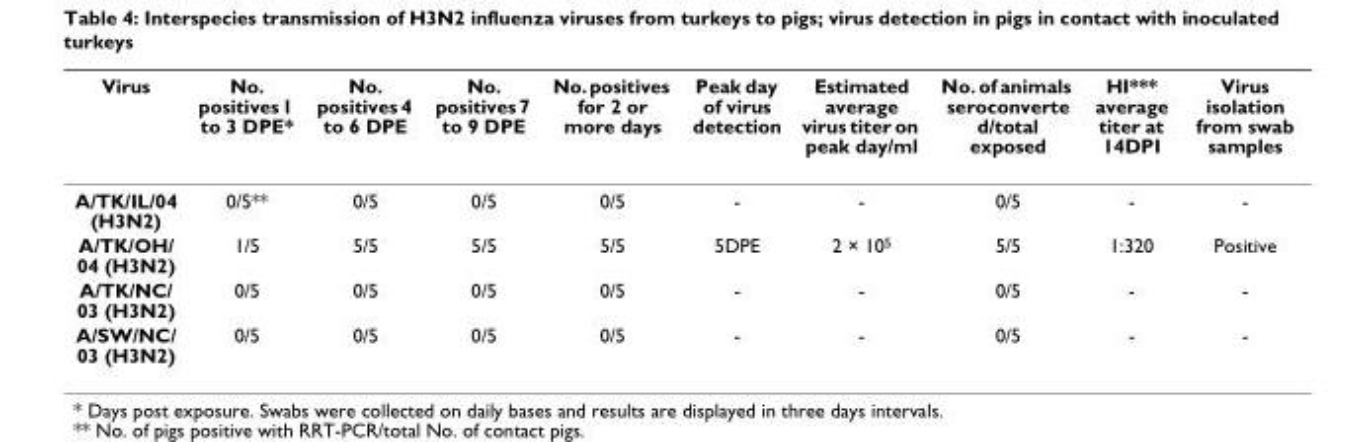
<table><thead><tr><td>Virus</td><td>No. positives 1 to 3 DPE*</td><td>No. positives 4 to 6 DPE</td><td>No. positives 7 to 9 DPE</td><td>No. positives for 2 or more days</td><td>Peak day of virus detection</td><td>Estimated average virus titer on peak day/ml</td><td>No. of animals seroconverte d/total exposed</td><td>HI*** average titer at 14DPI</td><td>Virus isolation from swab samples</td></tr></thead><tbody><tr><td>A/TK/IL/04 (H3N2)</td><td>0/5**</td><td>0/5</td><td>0/5</td><td>0/5</td><td>-</td><td>-</td><td>0/5</td><td>-</td><td>-</td></tr><tr><td>A/TK/OH/ 04 (H3N2)</td><td>1/5</td><td>5/5</td><td>5/5</td><td>5/5</td><td>5DPE</td><td>2 × 10<sup>5</sup></td><td>5/5</td><td>1:320</td><td>Positive</td></tr><tr><td>A/TK/NC/ 03 (H3N2)</td><td>0/5</td><td>0/5</td><td>0/5</td><td>0/5</td><td>-</td><td>-</td><td>0/5</td><td>-</td><td>-</td></tr><tr><td>A/SW/NC/ 03 (H3N2)</td><td>0/5</td><td>0/5</td><td>0/5</td><td>0/5</td><td>-</td><td>-</td><td>0/5</td><td>-</td><td>-</td></tr></tbody></table>